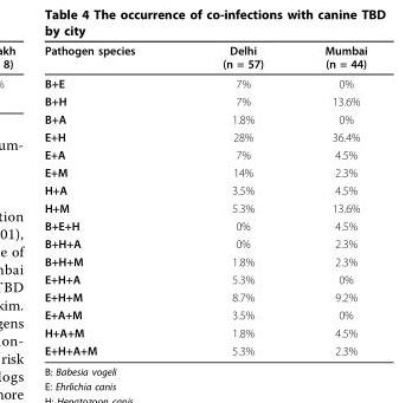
<table><thead><tr><td>Pathogen species</td><td>Delhi (n = 57)</td><td>Mumbai (n = 44)</td></tr></thead><tbody><tr><td>B+E</td><td>7%</td><td>0%</td></tr><tr><td>B+H</td><td>7%</td><td>13.6%</td></tr><tr><td>B+A</td><td>1.8%</td><td>0%</td></tr><tr><td>E+H</td><td>28%</td><td>36.4%</td></tr><tr><td>E+A</td><td>7%</td><td>4.5%</td></tr><tr><td>E+M</td><td>14%</td><td>2.3%</td></tr><tr><td>H+A</td><td>3.5%</td><td>4.5%</td></tr><tr><td>H+M</td><td>5.3%</td><td>13.6%</td></tr><tr><td>B+E+H</td><td>0%</td><td>4.5%</td></tr><tr><td>B+H+A</td><td>0%</td><td>2.3%</td></tr><tr><td>B+H+M</td><td>1.8%</td><td>2.3%</td></tr><tr><td>E+H+A</td><td>5.3%</td><td>0%</td></tr><tr><td>E+H+M</td><td>8.7%</td><td>9.2%</td></tr><tr><td>E+A+M</td><td>3.5%</td><td>0%</td></tr><tr><td>H+A+M</td><td>1.8%</td><td>4.5%</td></tr><tr><td>E+H+A+M</td><td>5.3%</td><td>2.3%</td></tr></tbody></table>